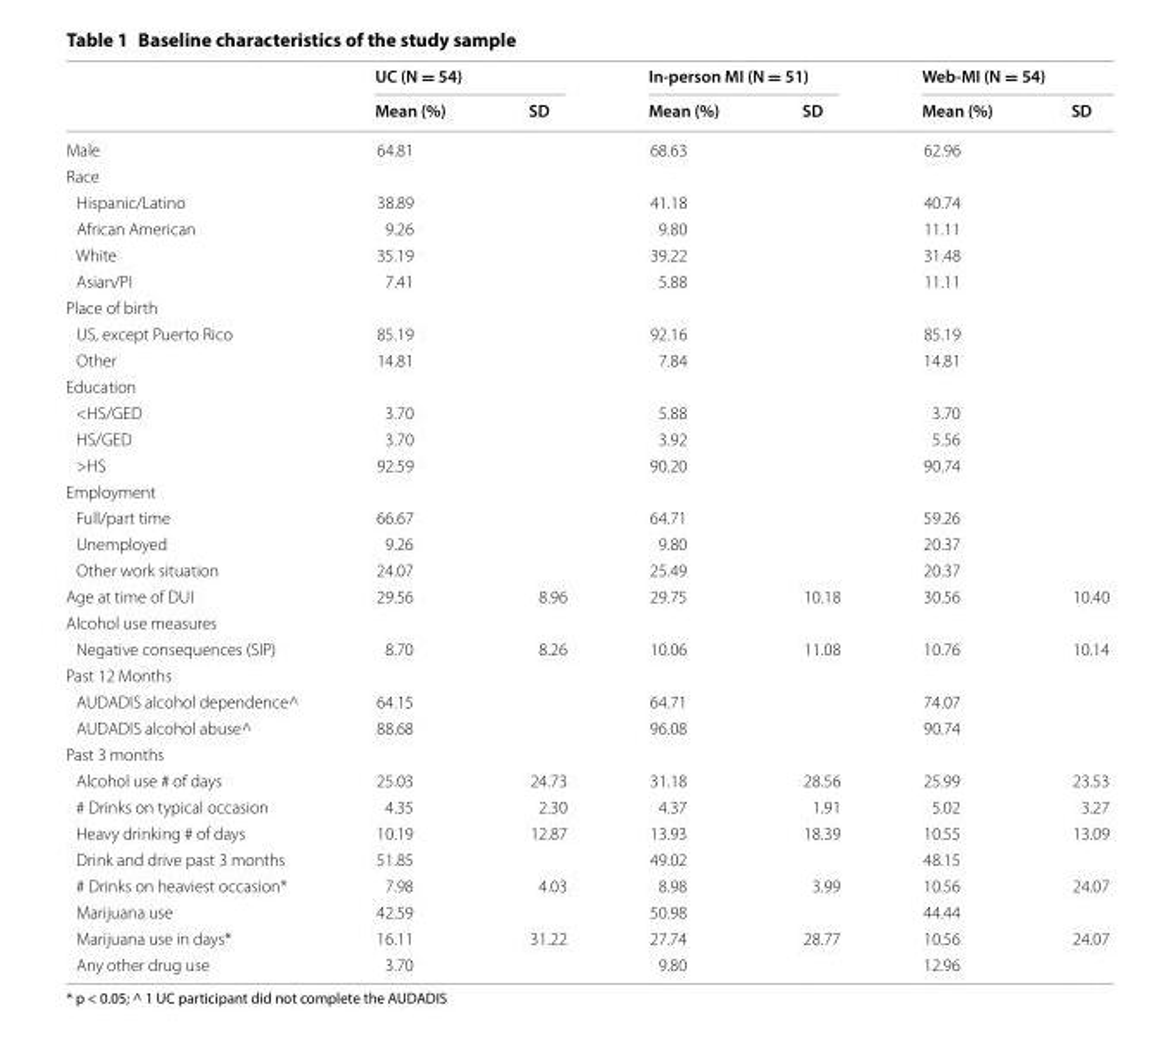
<table><thead><tr><td rowspan="2"></td><td colspan="2">UC (N = 54)</td><td colspan="2">In-person MI (N = 51)</td><td colspan="2">Web-MI (N = 54)</td></tr><tr><td>Mean (%)</td><td>SD</td><td>Mean (%)</td><td>SD</td><td>Mean (%)</td><td>SD</td></tr></thead><tbody><tr><td>Male</td><td>64.81</td><td></td><td>68.63</td><td></td><td>62.96</td><td></td></tr><tr><td colspan="7">Race</td></tr><tr><td>Hispanic/Latino</td><td>38.89</td><td></td><td>41.18</td><td></td><td>40.74</td><td></td></tr><tr><td>African American</td><td>9.26</td><td></td><td>9.80</td><td></td><td>11.11</td><td></td></tr><tr><td>White</td><td>35.19</td><td></td><td>39.22</td><td></td><td>31.48</td><td></td></tr><tr><td>Asian/PI</td><td>7.41</td><td></td><td>5.88</td><td></td><td>11.11</td><td></td></tr><tr><td colspan="7">Place of birth</td></tr><tr><td>US, except Puerto Rico</td><td>85.19</td><td></td><td>92.16</td><td></td><td>85.19</td><td></td></tr><tr><td>Other</td><td>14.81</td><td></td><td>7.84</td><td></td><td>14.81</td><td></td></tr><tr><td colspan="7">Education</td></tr><tr><td>&lt;HS/GED</td><td>3.70</td><td></td><td>5.88</td><td></td><td>3.70</td><td></td></tr><tr><td>HS/GED</td><td>3.70</td><td></td><td>3.92</td><td></td><td>5.56</td><td></td></tr><tr><td>&gt;HS</td><td>92.59</td><td></td><td>90.20</td><td></td><td>90.74</td><td></td></tr><tr><td colspan="7">Employment</td></tr><tr><td>Full/part time</td><td>66.67</td><td></td><td>64.71</td><td></td><td>59.26</td><td></td></tr><tr><td>Unemployed</td><td>9.26</td><td></td><td>9.80</td><td></td><td>20.37</td><td></td></tr><tr><td>Other work situation</td><td>24.07</td><td></td><td>25.49</td><td></td><td>20.37</td><td></td></tr><tr><td>Age at time of DUI</td><td>29.56</td><td>8.96</td><td>29.75</td><td>10.18</td><td>30.56</td><td>10.40</td></tr><tr><td colspan="7">Alcohol use measures</td></tr><tr><td>Negative consequences (SIP)</td><td>8.70</td><td>8.26</td><td>10.06</td><td>11.08</td><td>10.76</td><td>10.14</td></tr><tr><td colspan="7">Past 12 Months</td></tr><tr><td>AUDADIS alcohol dependence^</td><td>64.15</td><td></td><td>64.71</td><td></td><td>74.07</td><td></td></tr><tr><td>AUDADIS alcohol abuse^</td><td>88.68</td><td></td><td>96.08</td><td></td><td>90.74</td><td></td></tr><tr><td colspan="7">Past 3 months</td></tr><tr><td>Alcohol use # of days</td><td>25.03</td><td>24.73</td><td>31.18</td><td>28.56</td><td>25.99</td><td>23.53</td></tr><tr><td># Drinks on typical occasion</td><td>4.35</td><td>2.30</td><td>4.37</td><td>1.91</td><td>5.02</td><td>3.27</td></tr><tr><td>Heavy drinking # of days</td><td>10.19</td><td>12.87</td><td>13.93</td><td>18.39</td><td>10.55</td><td>13.09</td></tr><tr><td>Drink and drive past 3 months</td><td>51.85</td><td></td><td>49.02</td><td></td><td>48.15</td><td></td></tr><tr><td># Drinks on heaviest occasion*</td><td>7.98</td><td>4.03</td><td>8.98</td><td>3.99</td><td>10.56</td><td>24.07</td></tr><tr><td>Marijuana use</td><td>42.59</td><td></td><td>50.98</td><td></td><td>44.44</td><td></td></tr><tr><td>Marijuana use in days*</td><td>16.11</td><td>31.22</td><td>27.74</td><td>28.77</td><td>10.56</td><td>24.07</td></tr><tr><td>Any other drug use</td><td>3.70</td><td></td><td>9.80</td><td></td><td>12.96</td><td></td></tr></tbody></table>